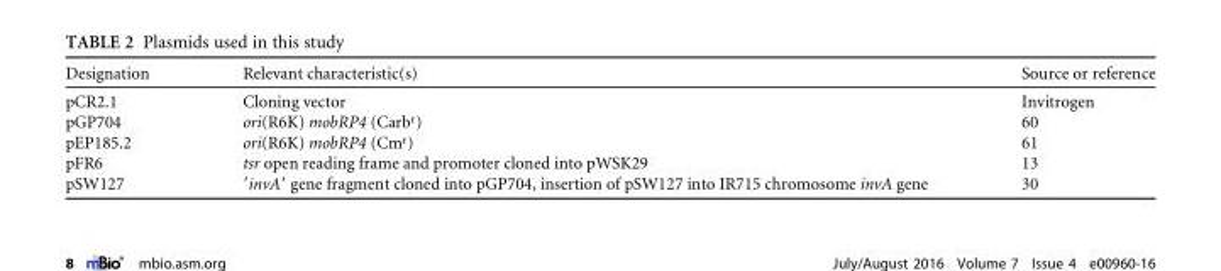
<table><thead><tr><td>Designation</td><td>Relevant characteristic(s)</td><td>Source or reference</td></tr></thead><tbody><tr><td>pCR2.1</td><td>Cloning vector</td><td>Invitrogen</td></tr><tr><td>pGP704</td><td>ori(R6K) mobRP4 (Carb<sup>r</sup>)</td><td>60</td></tr><tr><td>pEP185.2</td><td>ori(R6K) mobRP4 (Cm<sup>r</sup>)</td><td>61</td></tr><tr><td>pFR6</td><td>tsr open reading frame and promoter cloned into pWSK29</td><td>13</td></tr><tr><td>pSW127</td><td>=invA= gene fragment cloned into pGP704, insertion of pSW127 into IR715 chromosome invA gene</td><td>30</td></tr></tbody></table>